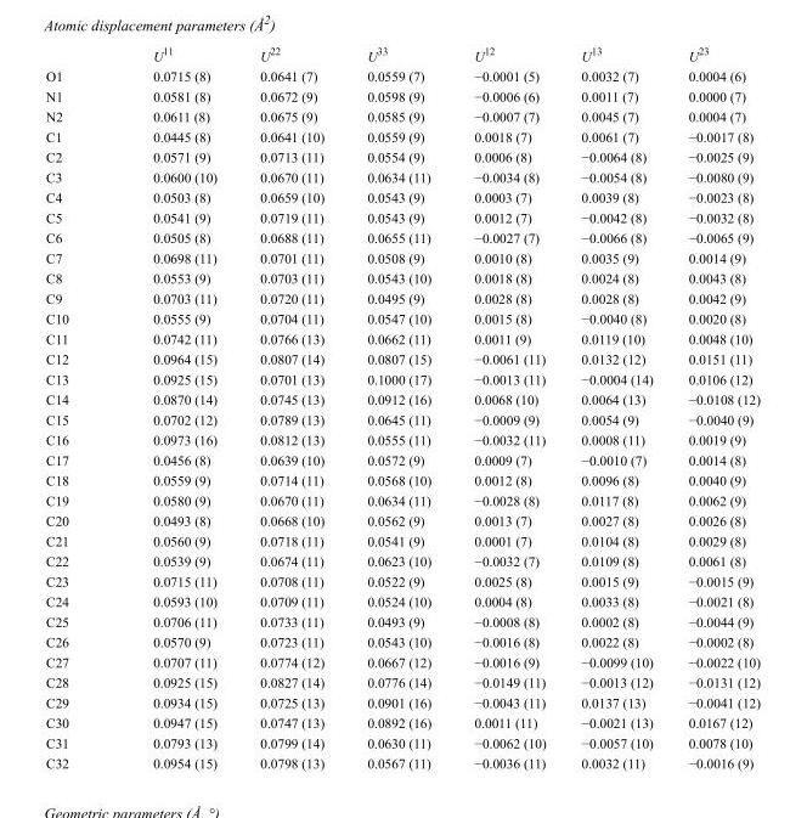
<table><thead><tr><td></td><td>U<sup>11</sup></td><td>U<sup>22</sup></td><td>U<sup>33</sup></td><td>U<sup>12</sup></td><td>U<sup>13</sup></td><td>U<sup>23</sup></td></tr></thead><tbody><tr><td>O1</td><td>0.0715 (8)</td><td>0.0641 (7)</td><td>0.0559 (7)</td><td>−0.0001 (5)</td><td>0.0032 (7)</td><td>0.0004 (6)</td></tr><tr><td>N1</td><td>0.0581 (8)</td><td>0.0672 (9)</td><td>0.0598 (9)</td><td>−0.0006 (6)</td><td>0.0011 (7)</td><td>0.0000 (7)</td></tr><tr><td>N2</td><td>0.0611 (8)</td><td>0.0675 (9)</td><td>0.0585 (9)</td><td>−0.0007 (7)</td><td>0.0045 (7)</td><td>0.0004 (7)</td></tr><tr><td>C1</td><td>0.0445 (8)</td><td>0.0641 (10)</td><td>0.0559 (9)</td><td>0.0018 (7)</td><td>0.0061 (7)</td><td>−0.0017 (8)</td></tr><tr><td>C2</td><td>0.0571 (9)</td><td>0.0713 (11)</td><td>0.0554 (9)</td><td>0.0006 (8)</td><td>−0.0064 (8)</td><td>−0.0025 (9)</td></tr><tr><td>C3</td><td>0.0600 (10)</td><td>0.0670 (11)</td><td>0.0634 (11)</td><td>−0.0034 (8)</td><td>−0.0054 (8)</td><td>−0.0080 (9)</td></tr><tr><td>C4</td><td>0.0503 (8)</td><td>0.0659 (10)</td><td>0.0543 (9)</td><td>0.0003 (7)</td><td>0.0039 (8)</td><td>−0.0023 (8)</td></tr><tr><td>C5</td><td>0.0541 (9)</td><td>0.0719 (11)</td><td>0.0543 (9)</td><td>0.0012 (7)</td><td>−0.0042 (8)</td><td>−0.0032 (8)</td></tr><tr><td>C6</td><td>0.0505 (8)</td><td>0.0688 (11)</td><td>0.0655 (11)</td><td>−0.0027 (7)</td><td>−0.0066 (8)</td><td>−0.0065 (9)</td></tr><tr><td>C7</td><td>0.0698 (11)</td><td>0.0701 (11)</td><td>0.0508 (9)</td><td>0.0010 (8)</td><td>0.0035 (9)</td><td>0.0014 (9)</td></tr><tr><td>C8</td><td>0.0553 (9)</td><td>0.0703 (11)</td><td>0.0543 (10)</td><td>0.0018 (8)</td><td>0.0024 (8)</td><td>0.0043 (8)</td></tr><tr><td>C9</td><td>0.0703 (11)</td><td>0.0720 (11)</td><td>0.0495 (9)</td><td>0.0028 (8)</td><td>0.0028 (8)</td><td>0.0042 (9)</td></tr><tr><td>C10</td><td>0.0555 (9)</td><td>0.0704 (11)</td><td>0.0547 (10)</td><td>0.0015 (8)</td><td>−0.0040 (8)</td><td>0.0020 (8)</td></tr><tr><td>C11</td><td>0.0742 (11)</td><td>0.0766 (13)</td><td>0.0662 (11)</td><td>0.0011 (9)</td><td>0.0119 (10)</td><td>0.0048 (10)</td></tr><tr><td>C12</td><td>0.0964 (15)</td><td>0.0807 (14)</td><td>0.0807 (15)</td><td>−0.0061 (11)</td><td>0.0132 (12)</td><td>0.0151 (11)</td></tr><tr><td>C13</td><td>0.0925 (15)</td><td>0.0701 (13)</td><td>0.1000 (17)</td><td>−0.0013 (11)</td><td>−0.0004 (14)</td><td>0.0106 (12)</td></tr><tr><td>C14</td><td>0.0870 (14)</td><td>0.0745 (13)</td><td>0.0912 (16)</td><td>0.0068 (10)</td><td>0.0064 (13)</td><td>−0.0108 (12)</td></tr><tr><td>C15</td><td>0.0702 (12)</td><td>0.0789 (13)</td><td>0.0645 (11)</td><td>−0.0009 (9)</td><td>0.0054 (9)</td><td>−0.0040 (9)</td></tr><tr><td>C16</td><td>0.0973 (16)</td><td>0.0812 (13)</td><td>0.0555 (11)</td><td>−0.0032 (11)</td><td>0.0008 (11)</td><td>0.0019 (9)</td></tr><tr><td>C17</td><td>0.0456 (8)</td><td>0.0639 (10)</td><td>0.0572 (9)</td><td>0.0009 (7)</td><td>−0.0010 (7)</td><td>0.0014 (8)</td></tr><tr><td>C18</td><td>0.0559 (9)</td><td>0.0714 (11)</td><td>0.0568 (10)</td><td>0.0012 (8)</td><td>0.0096 (8)</td><td>0.0040 (9)</td></tr><tr><td>C19</td><td>0.0580 (9)</td><td>0.0670 (11)</td><td>0.0634 (11)</td><td>−0.0028 (8)</td><td>0.0117 (8)</td><td>0.0062 (9)</td></tr><tr><td>C20</td><td>0.0493 (8)</td><td>0.0668 (10)</td><td>0.0562 (9)</td><td>0.0013 (7)</td><td>0.0027 (8)</td><td>0.0026 (8)</td></tr><tr><td>C21</td><td>0.0560 (9)</td><td>0.0718 (11)</td><td>0.0541 (9)</td><td>0.0001 (7)</td><td>0.0104 (8)</td><td>0.0029 (8)</td></tr><tr><td>C22</td><td>0.0539 (9)</td><td>0.0674 (11)</td><td>0.0623 (10)</td><td>−0.0032 (7)</td><td>0.0109 (8)</td><td>0.0061 (8)</td></tr><tr><td>C23</td><td>0.0715 (11)</td><td>0.0708 (11)</td><td>0.0522 (9)</td><td>0.0025 (8)</td><td>0.0015 (9)</td><td>−0.0015 (9)</td></tr><tr><td>C24</td><td>0.0593 (10)</td><td>0.0709 (11)</td><td>0.0524 (10)</td><td>0.0004 (8)</td><td>0.0033 (8)</td><td>−0.0021 (8)</td></tr><tr><td>C25</td><td>0.0706 (11)</td><td>0.0733 (11)</td><td>0.0493 (9)</td><td>−0.0008 (8)</td><td>0.0002 (8)</td><td>−0.0044 (9)</td></tr><tr><td>C26</td><td>0.0570 (9)</td><td>0.0723 (11)</td><td>0.0543 (10)</td><td>−0.0016 (8)</td><td>0.0022 (8)</td><td>−0.0002 (8)</td></tr><tr><td>C27</td><td>0.0707 (11)</td><td>0.0774 (12)</td><td>0.0667 (12)</td><td>−0.0016 (9)</td><td>−0.0099 (10)</td><td>−0.0022 (10)</td></tr><tr><td>C28</td><td>0.0925 (15)</td><td>0.0827 (14)</td><td>0.0776 (14)</td><td>−0.0149 (11)</td><td>−0.0013 (12)</td><td>−0.0131 (12)</td></tr><tr><td>C29</td><td>0.0934 (15)</td><td>0.0725 (13)</td><td>0.0901 (16)</td><td>−0.0043 (11)</td><td>0.0137 (13)</td><td>−0.0041 (12)</td></tr><tr><td>C30</td><td>0.0947 (15)</td><td>0.0747 (13)</td><td>0.0892 (16)</td><td>0.0011 (11)</td><td>−0.0021 (13)</td><td>0.0167 (12)</td></tr><tr><td>C31</td><td>0.0793 (13)</td><td>0.0799 (14)</td><td>0.0630 (11)</td><td>−0.0062 (10)</td><td>−0.0057 (10)</td><td>0.0078 (10)</td></tr><tr><td>C32</td><td>0.0954 (15)</td><td>0.0798 (13)</td><td>0.0567 (11)</td><td>−0.0036 (11)</td><td>0.0032 (11)</td><td>−0.0016 (9)</td></tr></tbody></table>